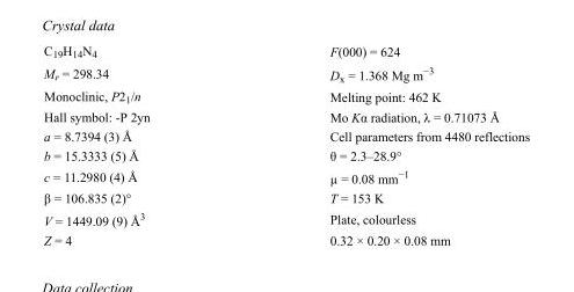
<table><tbody><tr><td>C<sub>19</sub>H<sub>14</sub>N<sub>4</sub></td><td>F(000) = 624</td></tr><tr><td>M<sub>r</sub> = 298.34</td><td>D<sub>x</sub> = 1.368 Mg m<sup>−3</sup></td></tr><tr><td>Monoclinic, P2<sub>1</sub>/n</td><td>Melting point: 462 K</td></tr><tr><td>Hall symbol: -P 2yn</td><td>Mo Kα radiation, λ = 0.71073 Å</td></tr><tr><td>a = 8.7394 (3) Å</td><td>Cell parameters from 4480 reflections</td></tr><tr><td>b = 15.3333 (5) Å</td><td>θ = 2.3–28.9°</td></tr><tr><td>c = 11.2980 (4) Å</td><td>µ = 0.08 mm<sup>−1</sup></td></tr><tr><td>β = 106.835 (2)°</td><td>T = 153 K</td></tr><tr><td>V = 1449.09 (9) Å<sup>3</sup></td><td>Plate, colourless</td></tr><tr><td>Z = 4</td><td>0.32 × 0.20 × 0.08 mm</td></tr></tbody></table>